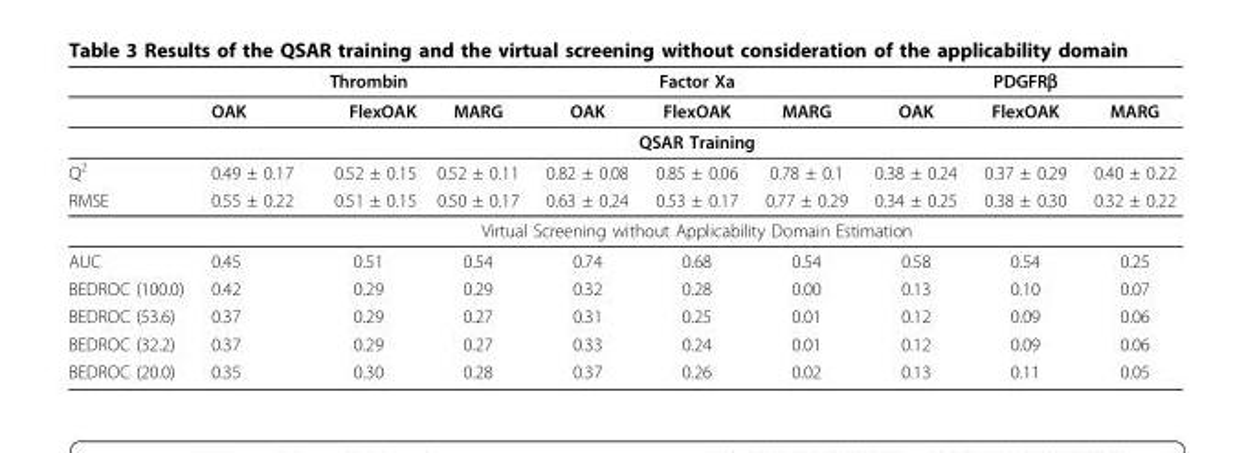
<table><thead><tr><td rowspan="2"></td><td colspan="3">Thrombin</td><td colspan="3">Factor Xa</td><td colspan="3">PDGFRβ</td></tr><tr><td>OAK</td><td>FlexOAK</td><td>MARG</td><td>OAK</td><td>FlexOAK</td><td>MARG</td><td>OAK</td><td>FlexOAK</td><td>MARG</td></tr></thead><tbody><tr><td></td><td colspan="9">QSAR Training</td></tr><tr><td>Q<sup>2</sup></td><td>0.49 ± 0.17</td><td>0.52 ± 0.15</td><td>0.52 ± 0.11</td><td>0.82 ± 0.08</td><td>0.85 ± 0.06</td><td>0.78 ± 0.1</td><td>0.38 ± 0.24</td><td>0.37 ± 0.29</td><td>0.40 ± 0.22</td></tr><tr><td rowspan="2">RMSE</td><td>0.55 ± 0.22</td><td>0.51 ± 0.15</td><td>0.50 ± 0.17</td><td>0.63 ± 0.24</td><td>0.53 ± 0.17</td><td>0.77 ± 0.29</td><td>0.34 ± 0.25</td><td>0.38 ± 0.30</td><td>0.32 ± 0.22</td></tr><tr><td colspan="9">Virtual Screening without Applicability Domain Estimation</td></tr><tr><td>AUC</td><td>0.45</td><td>0.51</td><td>0.54</td><td>0.74</td><td>0.68</td><td>0.54</td><td>0.58</td><td>0.54</td><td>0.25</td></tr><tr><td>BEDROC (100.0)</td><td>0.42</td><td>0.29</td><td>0.29</td><td>0.32</td><td>0.28</td><td>0.00</td><td>0.13</td><td>0.10</td><td>0.07</td></tr><tr><td>BEDROC (53.6)</td><td>0.37</td><td>0.29</td><td>0.27</td><td>0.31</td><td>0.25</td><td>0.01</td><td>0.12</td><td>0.09</td><td>0.06</td></tr><tr><td>BEDROC (32.2)</td><td>0.37</td><td>0.29</td><td>0.27</td><td>0.33</td><td>0.24</td><td>0.01</td><td>0.12</td><td>0.09</td><td>0.06</td></tr><tr><td>BEDROC (20.0)</td><td>0.35</td><td>0.30</td><td>0.28</td><td>0.37</td><td>0.26</td><td>0.02</td><td>0.13</td><td>0.11</td><td>0.05</td></tr></tbody></table>